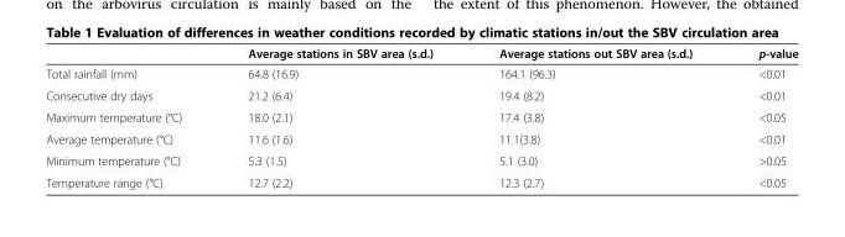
<table><thead><tr><td></td><td>Average stations in SBV area (s.d.)</td><td>Average stations out SBV area (s.d.)</td><td>p-value</td></tr></thead><tbody><tr><td>Total rainfall (mm)</td><td>64.8 (16.9)</td><td>164.1 (96.3)</td><td>&lt;0.01</td></tr><tr><td>Consecutive dry days</td><td>21.2 (6.4)</td><td>19.4 (8.2)</td><td>&lt;0.01</td></tr><tr><td>Maximum temperature (°C)</td><td>18.0 (2.1)</td><td>17.4 (3.8)</td><td>&lt;0.05</td></tr><tr><td>Average temperature (°C)</td><td>11.6 (1.6)</td><td>11.1(3.8)</td><td>&lt;0.01</td></tr><tr><td>Minimum temperature (°C)</td><td>5.3 (1.5)</td><td>5.1 (3.0)</td><td>&gt;0.05</td></tr><tr><td>Temperature range (°C)</td><td>12.7 (2.2)</td><td>12.3 (2.7)</td><td>&lt;0.05</td></tr></tbody></table>